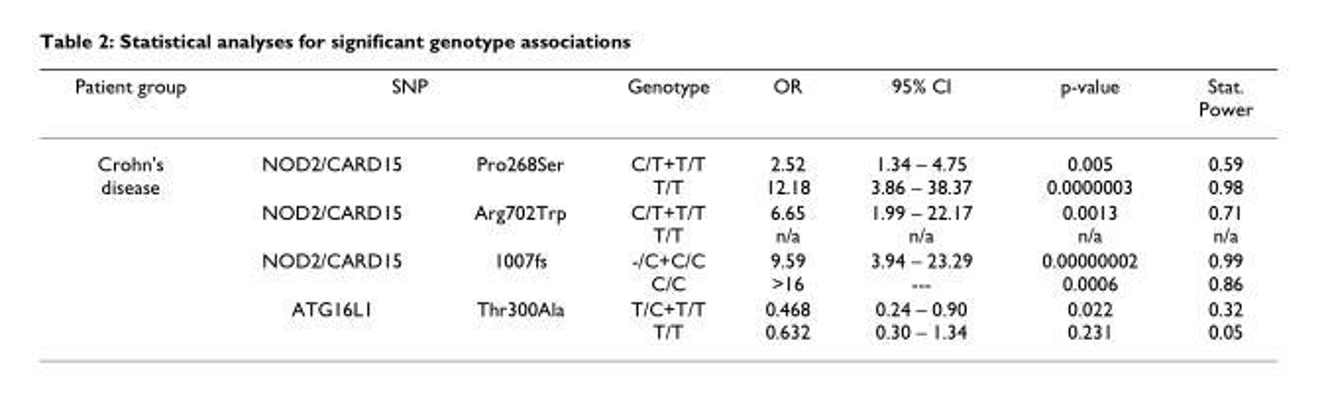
<table><thead><tr><td rowspan="2">Patient group Crohn&#x27;s disease</td><td colspan="2">SNP</td><td rowspan="2">Genotype C/T+T/T T/T</td><td rowspan="2">OR 2.52 12.18</td><td rowspan="2">95% CI 1.34 – 4.75 3.86 – 38.37</td><td rowspan="2">p-value 0.005 0.0000003</td><td rowspan="2">Stat. Power 0.59 0.98</td></tr><tr><td>NOD2/CARD15</td><td>Pro268Ser</td></tr></thead><tbody><tr><td></td><td>NOD2/CARD15</td><td>Arg702Trp</td><td>C/T+T/T T/T</td><td>6.65 n/a</td><td>1.99 – 22.17 n/a</td><td>0.0013 n/a</td><td>0.71 n/a</td></tr><tr><td></td><td>NOD2/CARD15</td><td>1007fs</td><td>-/C+C/C C/C</td><td>9.59 &gt;16</td><td>3.94 – 23.29 ---</td><td>0.00000002 0.0006</td><td>0.99 0.86</td></tr><tr><td></td><td>ATG16L1</td><td>Thr300Ala</td><td>T/C+T/T T/T</td><td>0.468 0.632</td><td>0.24 – 0.90 0.30 – 1.34</td><td>0.022 0.231</td><td>0.32 0.05</td></tr></tbody></table>